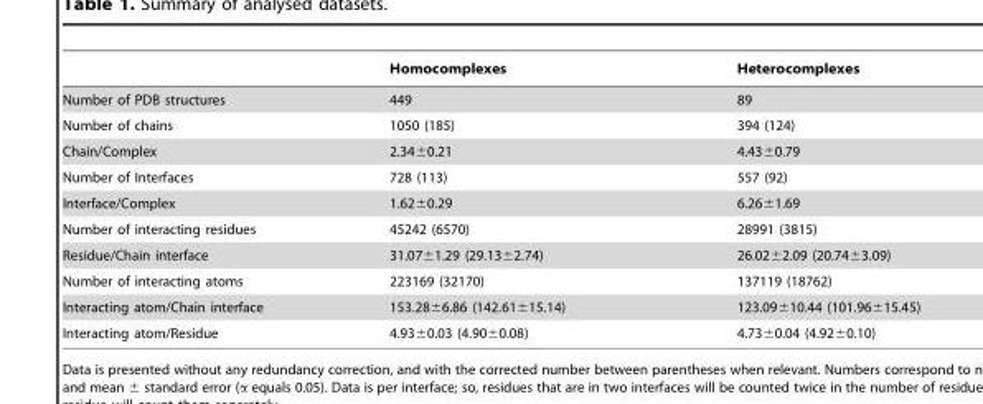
<table><thead><tr><td></td><td>Homocomplexes</td><td>Heterocomplexes</td></tr></thead><tbody><tr><td>Number of PDB structures</td><td>449</td><td>89</td></tr><tr><td>Number of chains</td><td>1050 (185)</td><td>394 (124)</td></tr><tr><td>Chain/Complex</td><td>2.34±0.21</td><td>4.43±0.79</td></tr><tr><td>Number of Interfaces</td><td>728 (113)</td><td>557 (92)</td></tr><tr><td>Interface/Complex</td><td>1.62±0.29</td><td>6.26±1.69</td></tr><tr><td>Number of interacting residues</td><td>45242 (6570)</td><td>28991 (3815)</td></tr><tr><td>Residue/Chain interface</td><td>31.07±1.29 (29.13±2.74)</td><td>26.02±2.09 (20.74±3.09)</td></tr><tr><td>Number of interacting atoms</td><td>223169 (32170)</td><td>137119 (18762)</td></tr><tr><td>Interacting atom/Chain interface</td><td>153.28±6.86 (142.61±15.14)</td><td>123.09±10.44 (101.96±15.45)</td></tr><tr><td>Interacting atom/Residue</td><td>4.93±0.03 (4.90±0.08)</td><td>4.73±0.04 (4.92±0.10)</td></tr></tbody></table>